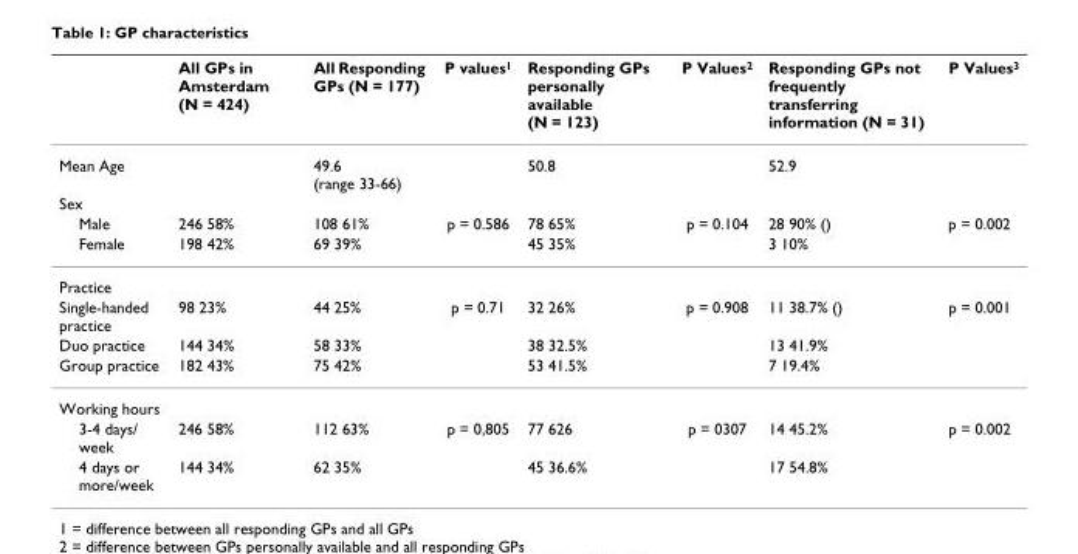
<table><thead><tr><td></td><td>All GPs in Amsterdam (N = 424)</td><td>All Responding GPs (N = 177)</td><td>P values<sup>1</sup></td><td>Responding GPs personally available (N = 123)</td><td>P Values<sup>2</sup></td><td>Responding GPs not frequently transferring information (N = 31)</td><td>P Values<sup>3</sup></td></tr></thead><tbody><tr><td>Mean Age</td><td></td><td>49.6 (range 33-66)</td><td></td><td>50.8</td><td></td><td>52.9</td><td></td></tr><tr><td colspan="8">Sex</td></tr><tr><td>Male</td><td>246 58%</td><td>108 61%</td><td>p = 0.586</td><td>78 65%</td><td>p = 0.104</td><td>28 90% ()</td><td>p = 0.002</td></tr><tr><td>Female</td><td>198 42%</td><td>69 39%</td><td></td><td>45 35%</td><td></td><td>3 10%</td><td></td></tr><tr><td colspan="8">Practice</td></tr><tr><td>Single-handed practice</td><td>98 23%</td><td>44 25%</td><td>p = 0.71</td><td>32 26%</td><td>p = 0.908</td><td>11 38.7% ()</td><td>p = 0.001</td></tr><tr><td>Duo practice</td><td>144 34%</td><td>58 33%</td><td></td><td>38 32.5%</td><td></td><td>13 41.9%</td><td></td></tr><tr><td>Group practice</td><td>182 43%</td><td>75 42%</td><td></td><td>53 41.5%</td><td></td><td>7 19.4%</td><td></td></tr><tr><td colspan="8">Working hours</td></tr><tr><td>3-4 days/ week</td><td>246 58%</td><td>112 63%</td><td>p = 0,805</td><td>77 626</td><td>p = 0307</td><td>14 45.2%</td><td>p = 0.002</td></tr><tr><td>4 days or more/week</td><td>144 34%</td><td>62 35%</td><td></td><td>45 36.6%</td><td></td><td>17 54.8%</td><td></td></tr></tbody></table>